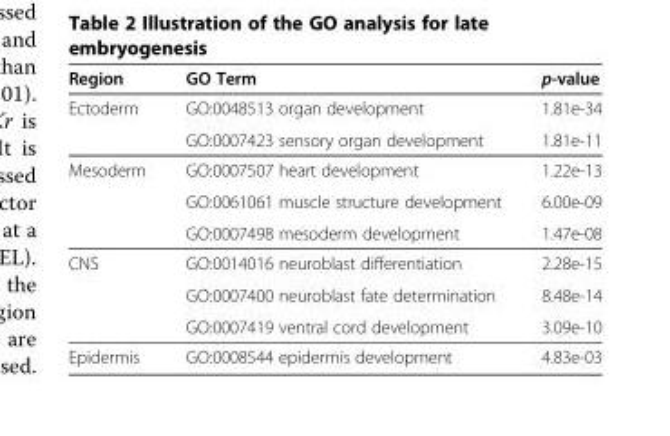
<table><thead><tr><td>Region</td><td>GO Term</td><td>p-value</td></tr></thead><tbody><tr><td rowspan="2">Ectoderm</td><td>GO:0048513 organ development</td><td>1.81e-34</td></tr><tr><td>GO:0007423 sensory organ development</td><td>1.81e-11</td></tr><tr><td rowspan="3">Mesoderm</td><td>GO:0007507 heart development</td><td>1.22e-13</td></tr><tr><td>GO:0061061 muscle structure development</td><td>6.00e-09</td></tr><tr><td>GO:0007498 mesoderm development</td><td>1.47e-08</td></tr><tr><td rowspan="3">CNS</td><td>GO:0014016 neuroblast differentiation</td><td>2.28e-15</td></tr><tr><td>GO:0007400 neuroblast fate determination</td><td>8.48e-14</td></tr><tr><td>GO:0007419 ventral cord development</td><td>3.09e-10</td></tr><tr><td>Epidermis</td><td>GO:0008544 epidermis development</td><td>4.83e-03</td></tr></tbody></table>